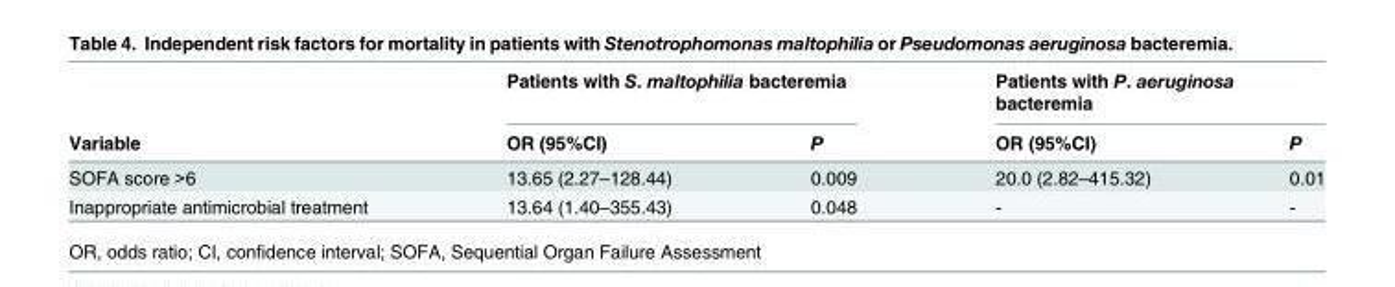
<table><thead><tr><td rowspan="2">Variable</td><td colspan="2">Patients with S. maltophilia bacteremia</td><td colspan="2">Patients with P. aeruginosa bacteremia</td></tr><tr><td>OR (95%CI)</td><td>P</td><td>OR (95%CI)</td><td>P</td></tr></thead><tbody><tr><td>SOFA score &gt;6</td><td>13.65 (2.27–128.44)</td><td>0.009</td><td>20.0 (2.82–415.32)</td><td>0.01</td></tr><tr><td>Inappropriate antimicrobial treatment</td><td>13.64 (1.40–355.43)</td><td>0.048</td><td>-</td><td>-</td></tr></tbody></table>